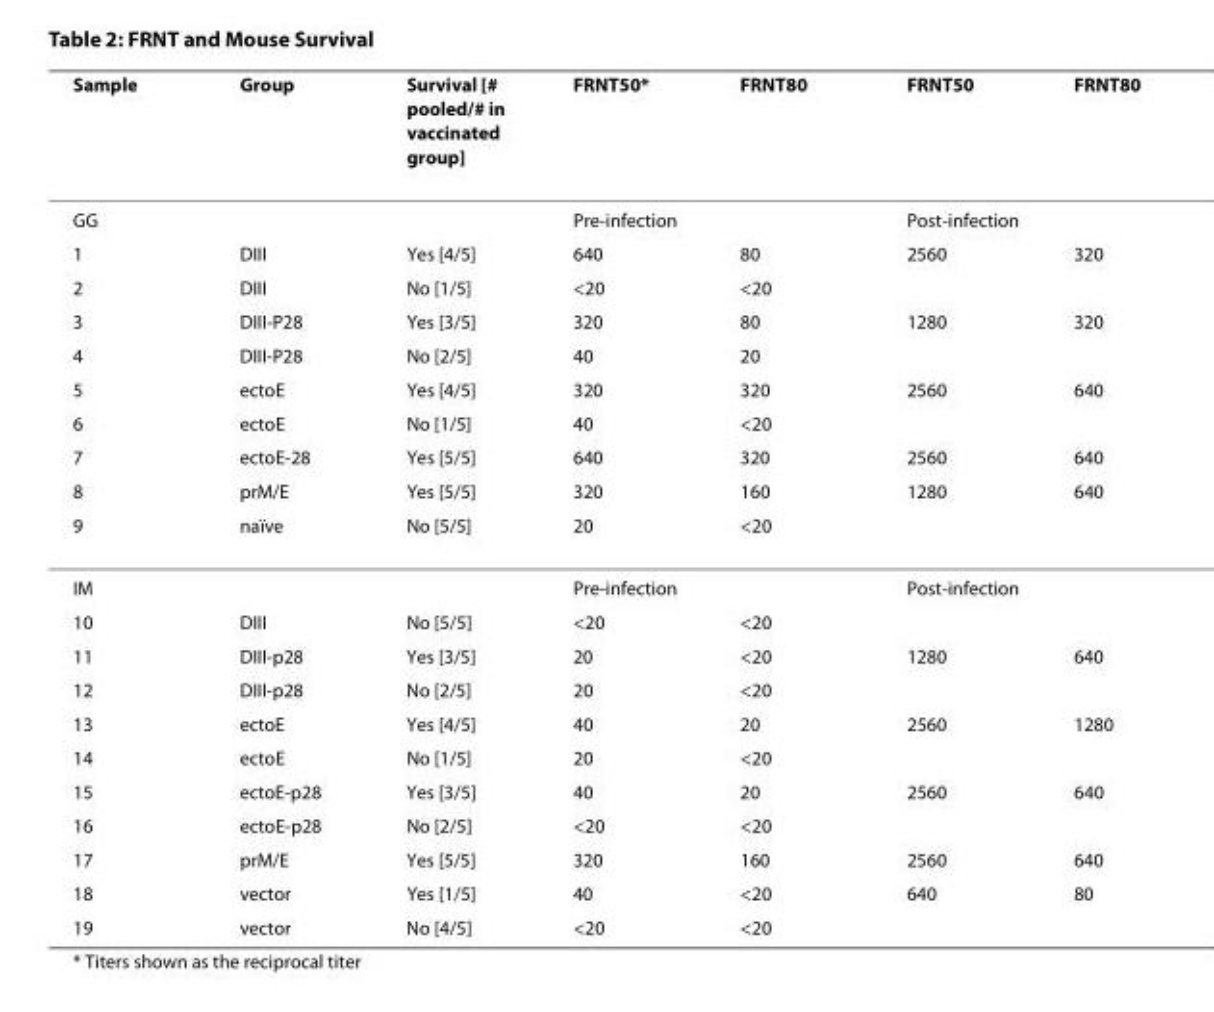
<table><thead><tr><td>Sample</td><td>Group</td><td>Survival [# pooled/# in vaccinated group]</td><td>FRNT50*</td><td>FRNT80</td><td>FRNT50</td><td>FRNT80</td></tr></thead><tbody><tr><td>GG</td><td></td><td></td><td colspan="2">Pre-infection</td><td colspan="2">Post-infection</td></tr><tr><td>1</td><td>DIII</td><td>Yes [4/5]</td><td>640</td><td>80</td><td>2560</td><td>320</td></tr><tr><td>2</td><td>DIII</td><td>No [1/5]</td><td>&lt;20</td><td>&lt;20</td><td></td><td></td></tr><tr><td>3</td><td>DIII-P28</td><td>Yes [3/5]</td><td>320</td><td>80</td><td>1280</td><td>320</td></tr><tr><td>4</td><td>DIII-P28</td><td>No [2/5]</td><td>40</td><td>20</td><td></td><td></td></tr><tr><td>5</td><td>ectoE</td><td>Yes [4/5]</td><td>320</td><td>320</td><td>2560</td><td>640</td></tr><tr><td>6</td><td>ectoE</td><td>No [1/5]</td><td>40</td><td>&lt;20</td><td></td><td></td></tr><tr><td>7</td><td>ectoE-28</td><td>Yes [5/5]</td><td>640</td><td>320</td><td>2560</td><td>640</td></tr><tr><td>8</td><td>prM/E</td><td>Yes [5/5]</td><td>320</td><td>160</td><td>1280</td><td>640</td></tr><tr><td>9</td><td>naïve</td><td>No [5/5]</td><td>20</td><td>&lt;20</td><td></td><td></td></tr><tr><td>IM</td><td></td><td></td><td colspan="2">Pre-infection</td><td colspan="2">Post-infection</td></tr><tr><td>10</td><td>DIII</td><td>No [5/5]</td><td>&lt;20</td><td>&lt;20</td><td></td><td></td></tr><tr><td>11</td><td>DIII-p28</td><td>Yes [3/5]</td><td>20</td><td>&lt;20</td><td>1280</td><td>640</td></tr><tr><td>12</td><td>DIII-p28</td><td>No [2/5]</td><td>20</td><td>&lt;20</td><td></td><td></td></tr><tr><td>13</td><td>ectoE</td><td>Yes [4/5]</td><td>40</td><td>20</td><td>2560</td><td>1280</td></tr><tr><td>14</td><td>ectoE</td><td>No [1/5]</td><td>20</td><td>&lt;20</td><td></td><td></td></tr><tr><td>15</td><td>ectoE-p28</td><td>Yes [3/5]</td><td>40</td><td>20</td><td>2560</td><td>640</td></tr><tr><td>16</td><td>ectoE-p28</td><td>No [2/5]</td><td>&lt;20</td><td>&lt;20</td><td></td><td></td></tr><tr><td>17</td><td>prM/E</td><td>Yes [5/5]</td><td>320</td><td>160</td><td>2560</td><td>640</td></tr><tr><td>18</td><td>vector</td><td>Yes [1/5]</td><td>40</td><td>&lt;20</td><td>640</td><td>80</td></tr><tr><td>19</td><td>vector</td><td>No [4/5]</td><td>&lt;20</td><td>&lt;20</td><td></td><td></td></tr></tbody></table>